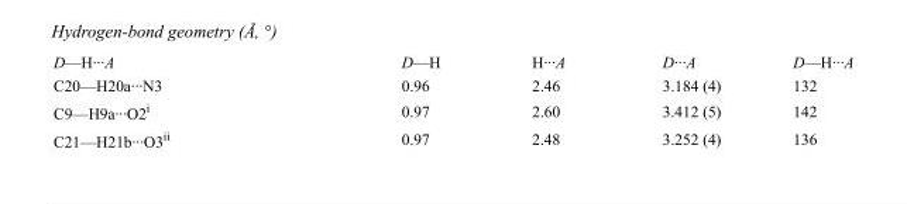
<table><tbody><tr><td>D—H···A</td><td>D—H</td><td>H···A</td><td>D···A</td><td>D—H···A</td></tr><tr><td>C20—H20a···N3</td><td>0.96</td><td>2.46</td><td>3.184 (4)</td><td>132</td></tr><tr><td>C9—H9a···O2<sup>i</sup></td><td>0.97</td><td>2.60</td><td>3.412 (5)</td><td>142</td></tr><tr><td>C21—H21b···O3<sup>ii</sup></td><td>0.97</td><td>2.48</td><td>3.252 (4)</td><td>136</td></tr></tbody></table>